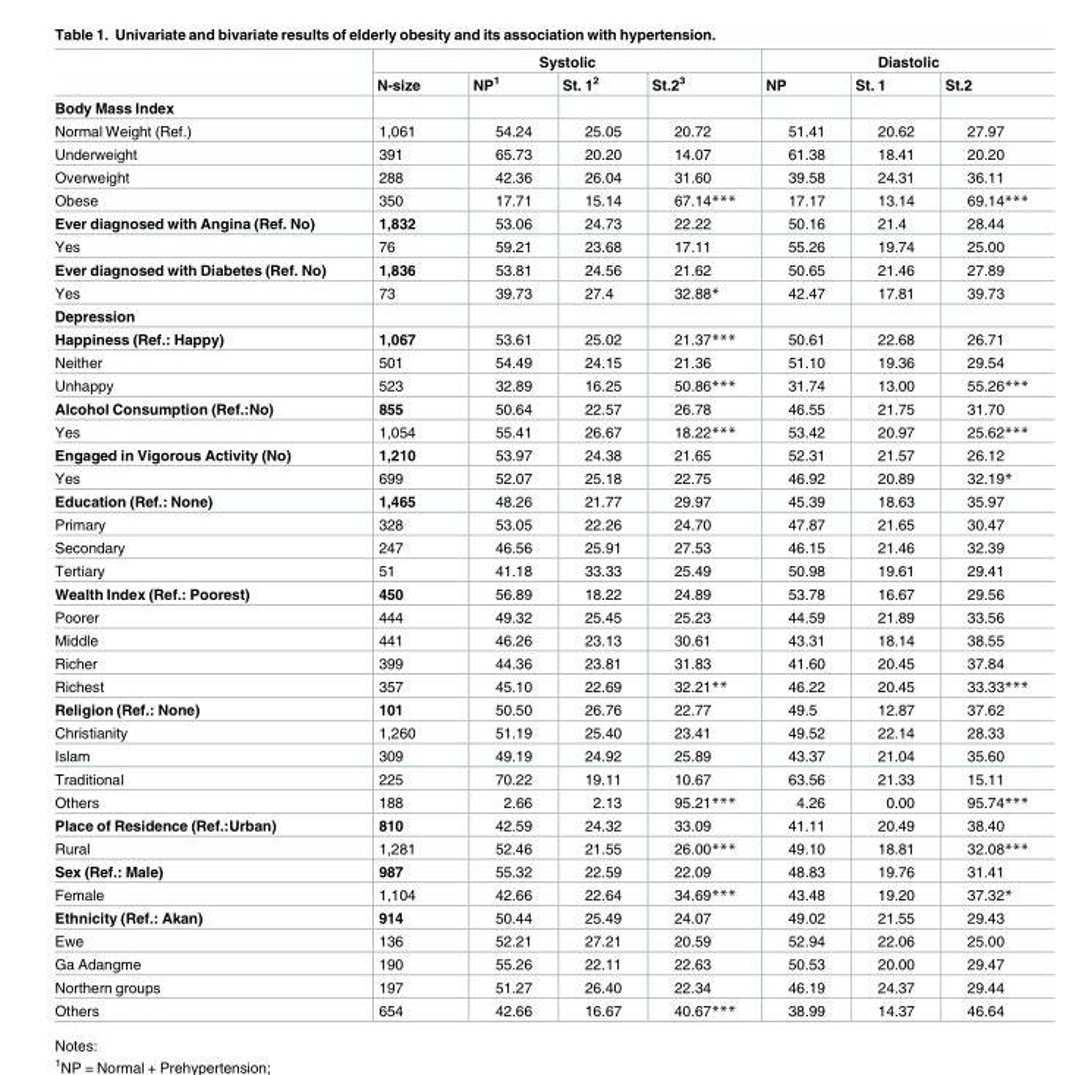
<table><thead><tr><td rowspan="2"></td><td colspan="4">Systolic</td><td colspan="3">Diastolic</td></tr><tr><td>N-size</td><td>NP<sup>1</sup></td><td>St. 1<sup>2</sup></td><td>St.2<sup>3</sup></td><td>NP</td><td>St. 1</td><td>St.2</td></tr></thead><tbody><tr><td colspan="8">Body Mass Index</td></tr><tr><td>Normal Weight (Ref.)</td><td>1,061</td><td>54.24</td><td>25.05</td><td>20.72</td><td>51.41</td><td>20.62</td><td>27.97</td></tr><tr><td>Underweight</td><td>391</td><td>65.73</td><td>20.20</td><td>14.07</td><td>61.38</td><td>18.41</td><td>20.20</td></tr><tr><td>Overweight</td><td>288</td><td>42.36</td><td>26.04</td><td>31.60</td><td>39.58</td><td>24.31</td><td>36.11</td></tr><tr><td>Obese</td><td>350</td><td>17.71</td><td>15.14</td><td>67.14***</td><td>17.17</td><td>13.14</td><td>69.14***</td></tr><tr><td>Ever diagnosed with Angina (Ref. No)</td><td>1,832</td><td>53.06</td><td>24.73</td><td>22.22</td><td>50.16</td><td>21.4</td><td>28.44</td></tr><tr><td>Yes</td><td>76</td><td>59.21</td><td>23.68</td><td>17.11</td><td>55.26</td><td>19.74</td><td>25.00</td></tr><tr><td>Ever diagnosed with Diabetes (Ref. No)</td><td>1,836</td><td>53.81</td><td>24.56</td><td>21.62</td><td>50.65</td><td>21.46</td><td>27.89</td></tr><tr><td>Yes</td><td>73</td><td>39.73</td><td>27.4</td><td>32.88*</td><td>42.47</td><td>17.81</td><td>39.73</td></tr><tr><td colspan="8">Depression</td></tr><tr><td>Happiness (Ref.: Happy)</td><td>1,067</td><td>53.61</td><td>25.02</td><td>21.37***</td><td>50.61</td><td>22.68</td><td>26.71</td></tr><tr><td>Neither</td><td>501</td><td>54.49</td><td>24.15</td><td>21.36</td><td>51.10</td><td>19.36</td><td>29.54</td></tr><tr><td>Unhappy</td><td>523</td><td>32.89</td><td>16.25</td><td>50.86***</td><td>31.74</td><td>13.00</td><td>55.26***</td></tr><tr><td>Alcohol Consumption (Ref.:No)</td><td>855</td><td>50.64</td><td>22.57</td><td>26.78</td><td>46.55</td><td>21.75</td><td>31.70</td></tr><tr><td>Yes</td><td>1,054</td><td>55.41</td><td>26.67</td><td>18.22***</td><td>53.42</td><td>20.97</td><td>25.62***</td></tr><tr><td>Engaged in Vigorous Activity (No)</td><td>1,210</td><td>53.97</td><td>24.38</td><td>21.65</td><td>52.31</td><td>21.57</td><td>26.12</td></tr><tr><td>Yes</td><td>699</td><td>52.07</td><td>25.18</td><td>22.75</td><td>46.92</td><td>20.89</td><td>32.19*</td></tr><tr><td>Education (Ref.: None)</td><td>1,465</td><td>48.26</td><td>21.77</td><td>29.97</td><td>45.39</td><td>18.63</td><td>35.97</td></tr><tr><td>Primary</td><td>328</td><td>53.05</td><td>22.26</td><td>24.70</td><td>47.87</td><td>21.65</td><td>30.47</td></tr><tr><td>Secondary</td><td>247</td><td>46.56</td><td>25.91</td><td>27.53</td><td>46.15</td><td>21.46</td><td>32.39</td></tr><tr><td>Tertiary</td><td>51</td><td>41.18</td><td>33.33</td><td>25.49</td><td>50.98</td><td>19.61</td><td>29.41</td></tr><tr><td>Wealth Index (Ref.: Poorest)</td><td>450</td><td>56.89</td><td>18.22</td><td>24.89</td><td>53.78</td><td>16.67</td><td>29.56</td></tr><tr><td>Poorer</td><td>444</td><td>49.32</td><td>25.45</td><td>25.23</td><td>44.59</td><td>21.89</td><td>33.56</td></tr><tr><td>Middle</td><td>441</td><td>46.26</td><td>23.13</td><td>30.61</td><td>43.31</td><td>18.14</td><td>38.55</td></tr><tr><td>Richer</td><td>399</td><td>44.36</td><td>23.81</td><td>31.83</td><td>41.60</td><td>20.45</td><td>37.84</td></tr><tr><td>Richest</td><td>357</td><td>45.10</td><td>22.69</td><td>32.21**</td><td>46.22</td><td>20.45</td><td>33.33***</td></tr><tr><td>Religion (Ref.: None)</td><td>101</td><td>50.50</td><td>26.76</td><td>22.77</td><td>49.5</td><td>12.87</td><td>37.62</td></tr><tr><td>Christianity</td><td>1,260</td><td>51.19</td><td>25.40</td><td>23.41</td><td>49.52</td><td>22.14</td><td>28.33</td></tr><tr><td>Islam</td><td>309</td><td>49.19</td><td>24.92</td><td>25.89</td><td>43.37</td><td>21.04</td><td>35.60</td></tr><tr><td>Traditional</td><td>225</td><td>70.22</td><td>19.11</td><td>10.67</td><td>63.56</td><td>21.33</td><td>15.11</td></tr><tr><td>Others</td><td>188</td><td>2.66</td><td>2.13</td><td>95.21***</td><td>4.26</td><td>0.00</td><td>95.74***</td></tr><tr><td>Place of Residence (Ref.:Urban)</td><td>810</td><td>42.59</td><td>24.32</td><td>33.09</td><td>41.11</td><td>20.49</td><td>38.40</td></tr><tr><td>Rural</td><td>1,281</td><td>52.46</td><td>21.55</td><td>26.00***</td><td>49.10</td><td>18.81</td><td>32.08***</td></tr><tr><td>Sex (Ref.: Male)</td><td>987</td><td>55.32</td><td>22.59</td><td>22.09</td><td>48.83</td><td>19.76</td><td>31.41</td></tr><tr><td>Female</td><td>1,104</td><td>42.66</td><td>22.64</td><td>34.69***</td><td>43.48</td><td>19.20</td><td>37.32*</td></tr><tr><td>Ethnicity (Ref.: Akan)</td><td>914</td><td>50.44</td><td>25.49</td><td>24.07</td><td>49.02</td><td>21.55</td><td>29.43</td></tr><tr><td>Ewe</td><td>136</td><td>52.21</td><td>27.21</td><td>20.59</td><td>52.94</td><td>22.06</td><td>25.00</td></tr><tr><td>Ga Adangme</td><td>190</td><td>55.26</td><td>22.11</td><td>22.63</td><td>50.53</td><td>20.00</td><td>29.47</td></tr><tr><td>Northern groups</td><td>197</td><td>51.27</td><td>26.40</td><td>22.34</td><td>46.19</td><td>24.37</td><td>29.44</td></tr><tr><td>Others</td><td>654</td><td>42.66</td><td>16.67</td><td>40.67***</td><td>38.99</td><td>14.37</td><td>46.64</td></tr></tbody></table>